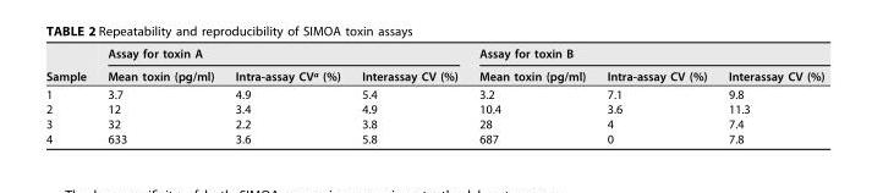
<table><thead><tr><td rowspan="2">Sample</td><td colspan="3">Assay for toxin A</td><td colspan="3">Assay for toxin B</td></tr><tr><td>Mean toxin (pg/ml)</td><td>Intra-assay CV<sup>a</sup> (%)</td><td>Interassay CV (%)</td><td>Mean toxin (pg/ml)</td><td>Intra-assay CV (%)</td><td>Interassay CV (%)</td></tr></thead><tbody><tr><td>1</td><td>3.7</td><td>4.9</td><td>5.4</td><td>3.2</td><td>7.1</td><td>9.8</td></tr><tr><td>2</td><td>12</td><td>3.4</td><td>4.9</td><td>10.4</td><td>3.6</td><td>11.3</td></tr><tr><td>3</td><td>32</td><td>2.2</td><td>3.8</td><td>28</td><td>4</td><td>7.4</td></tr><tr><td>4</td><td>633</td><td>3.6</td><td>5.8</td><td>687</td><td>0</td><td>7.8</td></tr></tbody></table>